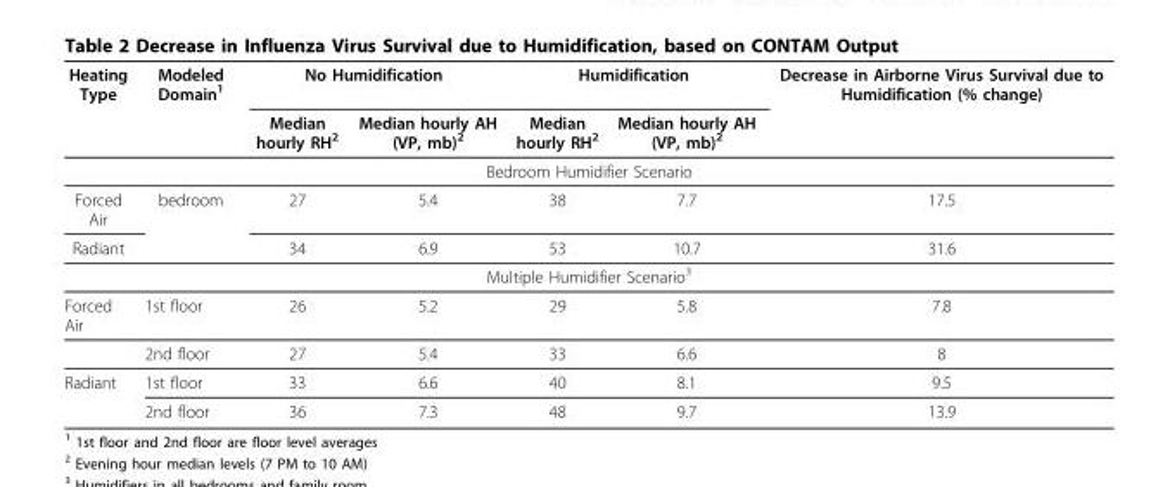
<table><thead><tr><td rowspan="2">Heating Type</td><td rowspan="2">Modeled Domain<sup>1</sup></td><td colspan="2">No Humidification</td><td colspan="2">Humidification</td><td rowspan="2">Decrease in Airborne Virus Survival due to Humidification (% change)</td></tr><tr><td>Median hourly RH<sup>2</sup></td><td>Median hourly AH (VP, mb)<sup>2</sup></td><td>Median hourly RH<sup>2</sup></td><td>Median hourly AH (VP, mb)<sup>2</sup></td></tr></thead><tbody><tr><td colspan="7">Bedroom Humidifier Scenario</td></tr><tr><td>Forced Air</td><td>bedroom</td><td>27</td><td>5.4</td><td>38</td><td>7.7</td><td>17.5</td></tr><tr><td>Radiant</td><td></td><td>34</td><td>6.9</td><td>53</td><td>10.7</td><td>31.6</td></tr><tr><td colspan="7">Multiple Humidifier Scenario<sup>3</sup></td></tr><tr><td rowspan="2">Forced Air</td><td>1st floor</td><td>26</td><td>5.2</td><td>29</td><td>5.8</td><td>7.8</td></tr><tr><td>2nd floor</td><td>27</td><td>5.4</td><td>33</td><td>6.6</td><td>8</td></tr><tr><td rowspan="2">Radiant</td><td>1st floor</td><td>33</td><td>6.6</td><td>40</td><td>8.1</td><td>9.5</td></tr><tr><td>2nd floor</td><td>36</td><td>7.3</td><td>48</td><td>9.7</td><td>13.9</td></tr></tbody></table>